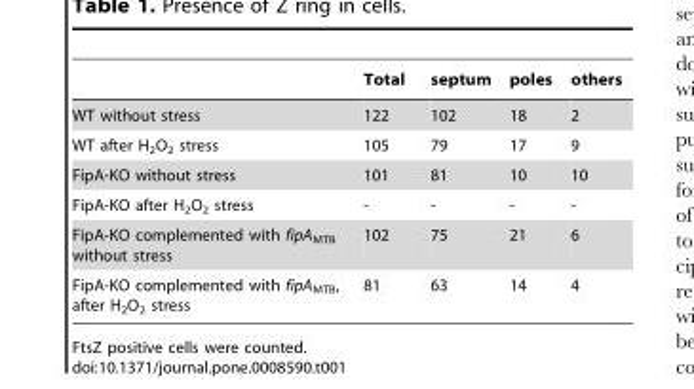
<table><thead><tr><td></td><td>Total</td><td>septum</td><td>poles</td><td>others</td></tr></thead><tbody><tr><td>WT without stress</td><td>122</td><td>102</td><td>18</td><td>2</td></tr><tr><td>WT after H2O2 stress</td><td>105</td><td>79</td><td>17</td><td>9</td></tr><tr><td>FipA-KO without stress</td><td>101</td><td>81</td><td>10</td><td>10</td></tr><tr><td>FipA-KO after H2O2 stress</td><td>-</td><td>-</td><td>-</td><td>-</td></tr><tr><td>FipA-KO complemented with fipAMTB without stress</td><td>102</td><td>75</td><td>21</td><td>6</td></tr><tr><td>FipA-KO complemented with fipAMTB, after H2O2 stress</td><td>81</td><td>63</td><td>14</td><td>4</td></tr></tbody></table>